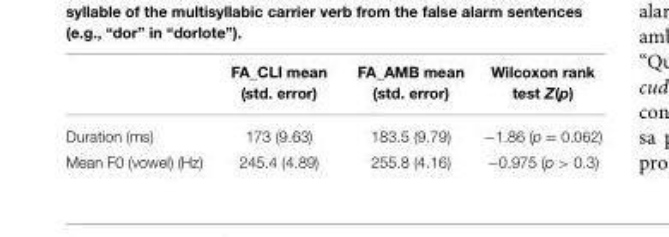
<table><thead><tr><td></td><td>FA_CLI mean (std. error)</td><td>FA_AMB mean (std. error)</td><td>Wilcoxon rank test Z(p)</td></tr></thead><tbody><tr><td>Duration (ms)</td><td>173 (9.63)</td><td>183.5 (9.79)</td><td>−1.86 (p = 0.062)</td></tr><tr><td>Mean F0 (vowel) (Hz)</td><td>245.4 (4.89)</td><td>255.8 (4.16)</td><td>−0.975 (p &gt; 0.3)</td></tr></tbody></table>